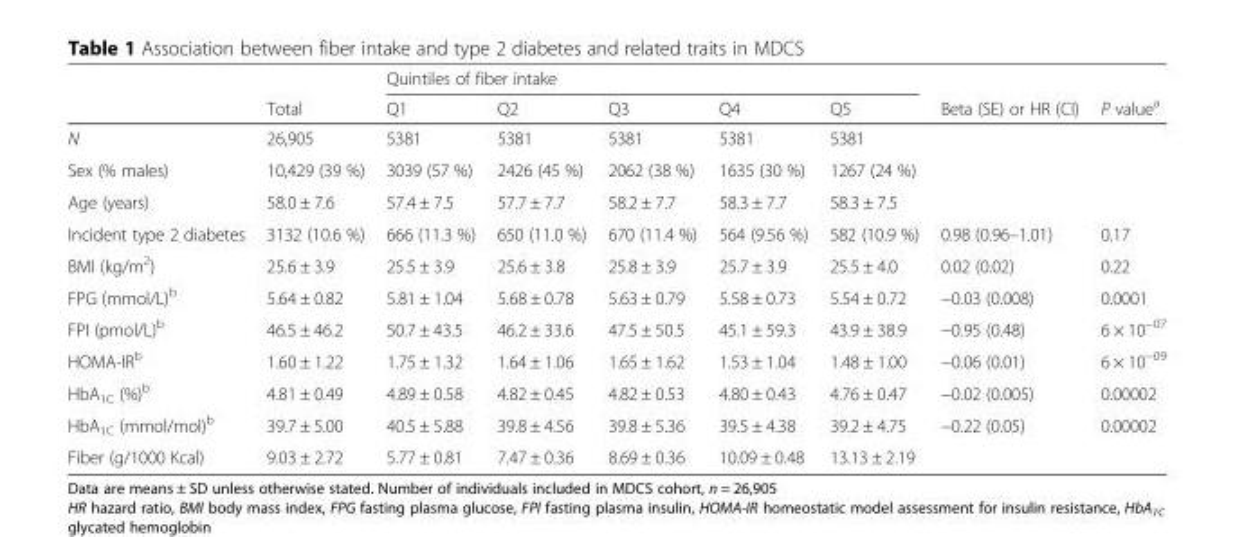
<table><thead><tr><td rowspan="2"></td><td rowspan="2">Total</td><td colspan="5">Quintiles of fiber intake</td><td rowspan="2">Βeta (SE) or HR (CI)</td><td rowspan="2">P value<sup>a</sup></td></tr><tr><td>Q1</td><td>Q2</td><td>Q3</td><td>Q4</td><td>Q5</td></tr></thead><tbody><tr><td>N</td><td>26,905</td><td>5381</td><td>5381</td><td>5381</td><td>5381</td><td>5381</td><td></td><td></td></tr><tr><td>Sex (% males)</td><td>10,429 (39 %)</td><td>3039 (57 %)</td><td>2426 (45 %)</td><td>2062 (38 %)</td><td>1635 (30 %)</td><td>1267 (24 %)</td><td></td><td></td></tr><tr><td>Age (years)</td><td>58.0 ± 7.6</td><td>57.4 ± 7.5</td><td>57.7 ± 7.7</td><td>58.2 ± 7.7</td><td>58.3 ± 7.7</td><td>58.3 ± 7.5</td><td></td><td></td></tr><tr><td>Incident type 2 diabetes</td><td>3132 (10.6 %)</td><td>666 (11.3 %)</td><td>650 (11.0 %)</td><td>670 (11.4 %)</td><td>564 (9.56 %)</td><td>582 (10.9 %)</td><td>0.98 (0.96–1.01)</td><td>0.17</td></tr><tr><td>BMI (kg/m<sup>2</sup>)</td><td>25.6 ± 3.9</td><td>25.5 ± 3.9</td><td>25.6 ± 3.8</td><td>25.8 ± 3.9</td><td>25.7 ± 3.9</td><td>25.5 ± 4.0</td><td>0.02 (0.02)</td><td>0.22</td></tr><tr><td>FPG (mmol/L)<sup>b</sup></td><td>5.64 ± 0.82</td><td>5.81 ± 1.04</td><td>5.68 ± 0.78</td><td>5.63 ± 0.79</td><td>5.58 ± 0.73</td><td>5.54 ± 0.72</td><td>−0.03 (0.008)</td><td>0.0001</td></tr><tr><td>FPI (pmol/L)<sup>b</sup></td><td>46.5 ± 46.2</td><td>50.7 ± 43.5</td><td>46.2 ± 33.6</td><td>47.5 ± 50.5</td><td>45.1 ± 59.3</td><td>43.9 ± 38.9</td><td>−0.95 (0.48)</td><td>6 × 10<sup>−07</sup></td></tr><tr><td>HOMA-IR<sup>b</sup></td><td>1.60 ± 1.22</td><td>1.75 ± 1.32</td><td>1.64 ± 1.06</td><td>1.65 ± 1.62</td><td>1.53 ± 1.04</td><td>1.48 ± 1.00</td><td>−0.06 (0.01)</td><td>6 × 10<sup>−09</sup></td></tr><tr><td>HbA<sub>1C</sub> (%)<sup>b</sup></td><td>4.81 ± 0.49</td><td>4.89 ± 0.58</td><td>4.82 ± 0.45</td><td>4.82 ± 0.53</td><td>4.80 ± 0.43</td><td>4.76 ± 0.47</td><td>−0.02 (0.005)</td><td>0.00002</td></tr><tr><td>HbA<sub>1C</sub> (mmol/mol)<sup>b</sup></td><td>39.7 ± 5.00</td><td>40.5 ± 5.88</td><td>39.8 ± 4.56</td><td>39.8 ± 5.36</td><td>39.5 ± 4.38</td><td>39.2 ± 4.75</td><td>−0.22 (0.05)</td><td>0.00002</td></tr><tr><td>Fiber (g/1000 Kcal)</td><td>9.03 ± 2.72</td><td>5.77 ± 0.81</td><td>7.47 ± 0.36</td><td>8.69 ± 0.36</td><td>10.09 ± 0.48</td><td>13.13 ± 2.19</td><td></td><td></td></tr></tbody></table>